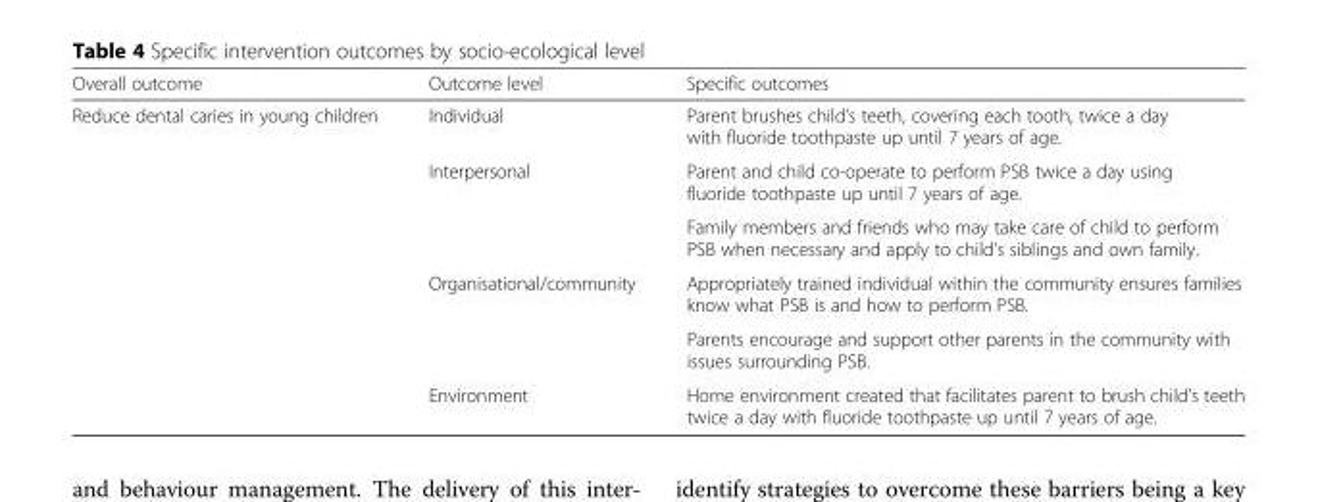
<table><thead><tr><td>Overall outcome</td><td>Outcome level</td><td>Specific outcomes</td></tr></thead><tbody><tr><td rowspan="6">Reduce dental caries in young children</td><td>Individual</td><td>Parent brushes child’s teeth, covering each tooth, twice a day with fluoride toothpaste up until 7 years of age.</td></tr><tr><td rowspan="2">Interpersonal</td><td>Parent and child co-operate to perform PSB twice a day using fluoride toothpaste up until 7 years of age.</td></tr><tr><td>Family members and friends who may take care of child to perform PSB when necessary and apply to child’s siblings and own family.</td></tr><tr><td rowspan="2">Organisational/community</td><td>Appropriately trained individual within the community ensures families know what PSB is and how to perform PSB.</td></tr><tr><td>Parents encourage and support other parents in the community with issues surrounding PSB.</td></tr><tr><td>Environment</td><td>Home environment created that facilitates parent to brush child’s teeth twice a day with fluoride toothpaste up until 7 years of age.</td></tr></tbody></table>